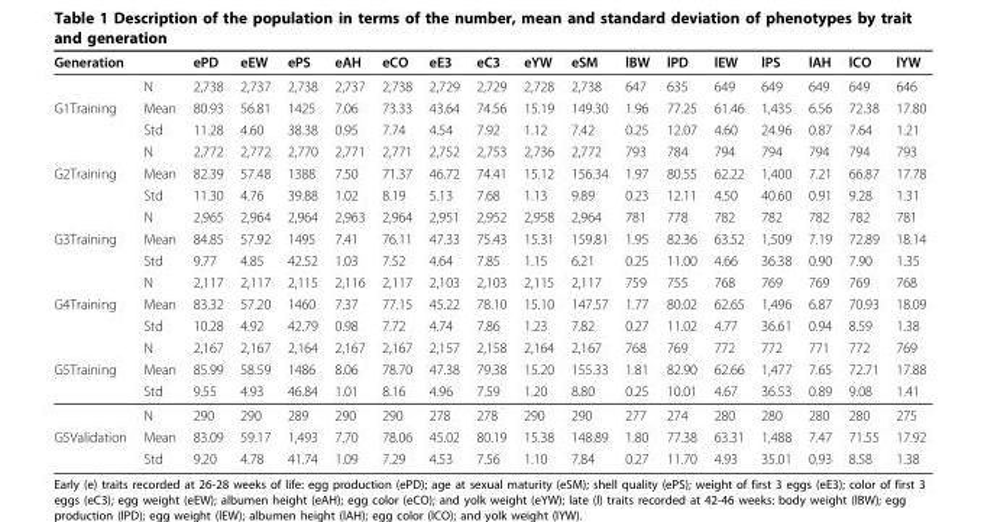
<table><thead><tr><td>Generation</td><td></td><td>ePD</td><td>eEW</td><td>ePS</td><td>eAH</td><td>eCO</td><td>eE3</td><td>eC3</td><td>eYW</td><td>eSM</td><td>lBW</td><td>lPD</td><td>lEW</td><td>lPS</td><td>lAH</td><td>lCO</td><td>lYW</td></tr></thead><tbody><tr><td></td><td>N</td><td>2,738</td><td>2,737</td><td>2,738</td><td>2,737</td><td>2,738</td><td>2,729</td><td>2,729</td><td>2,728</td><td>2,738</td><td>647</td><td>635</td><td>649</td><td>649</td><td>649</td><td>649</td><td>646</td></tr><tr><td rowspan="3">G1Training</td><td>Mean</td><td>80.93</td><td>56.81</td><td>1425</td><td>7.06</td><td>73.33</td><td>43.64</td><td>74.56</td><td>15.19</td><td>149.30</td><td>1.96</td><td>77.25</td><td>61.46</td><td>1,435</td><td>6.56</td><td>72.38</td><td>17.80</td></tr><tr><td>Std</td><td>11.28</td><td>4.60</td><td>38.38</td><td>0.95</td><td>7.74</td><td>4.54</td><td>7.92</td><td>1.12</td><td>7.42</td><td>0.25</td><td>12.07</td><td>4.60</td><td>24.96</td><td>0.87</td><td>7.64</td><td>1.21</td></tr><tr><td>N</td><td>2,772</td><td>2,772</td><td>2,770</td><td>2,771</td><td>2,771</td><td>2,752</td><td>2,753</td><td>2,736</td><td>2,772</td><td>793</td><td>784</td><td>794</td><td>794</td><td>794</td><td>794</td><td>793</td></tr><tr><td rowspan="3">G2Training</td><td>Mean</td><td>82.39</td><td>57.48</td><td>1388</td><td>7.50</td><td>71.37</td><td>46.72</td><td>74.41</td><td>15.12</td><td>156.34</td><td>1.97</td><td>80.55</td><td>62.22</td><td>1,400</td><td>7.21</td><td>66.87</td><td>17.78</td></tr><tr><td>Std</td><td>11.30</td><td>4.76</td><td>39.88</td><td>1.02</td><td>8.19</td><td>5.13</td><td>7.68</td><td>1.13</td><td>9.89</td><td>0.23</td><td>12.11</td><td>4.50</td><td>40.60</td><td>0.91</td><td>9.28</td><td>1.31</td></tr><tr><td>N</td><td>2,965</td><td>2,964</td><td>2,964</td><td>2,963</td><td>2,964</td><td>2,951</td><td>2,952</td><td>2,958</td><td>2,964</td><td>781</td><td>778</td><td>782</td><td>782</td><td>782</td><td>782</td><td>781</td></tr><tr><td rowspan="3">G3Training</td><td>Mean</td><td>84.85</td><td>57.92</td><td>1495</td><td>7.41</td><td>76.11</td><td>47.33</td><td>75.43</td><td>15.31</td><td>159.81</td><td>1.95</td><td>82.36</td><td>63.52</td><td>1,509</td><td>7.19</td><td>72.89</td><td>18.14</td></tr><tr><td>Std</td><td>9.77</td><td>4.85</td><td>42.52</td><td>1.03</td><td>7.52</td><td>4.64</td><td>7.85</td><td>1.15</td><td>6.21</td><td>0.25</td><td>11.00</td><td>4.66</td><td>36.38</td><td>0.90</td><td>7.90</td><td>1.35</td></tr><tr><td>N</td><td>2,117</td><td>2,117</td><td>2,115</td><td>2,116</td><td>2,117</td><td>2,103</td><td>2,103</td><td>2,115</td><td>2,117</td><td>759</td><td>755</td><td>768</td><td>769</td><td>769</td><td>769</td><td>768</td></tr><tr><td rowspan="3">G4Training</td><td>Mean</td><td>83.32</td><td>57.20</td><td>1460</td><td>7.37</td><td>77.15</td><td>45.22</td><td>78.10</td><td>15.10</td><td>147.57</td><td>1.77</td><td>80.02</td><td>62.65</td><td>1,496</td><td>6.87</td><td>70.93</td><td>18.09</td></tr><tr><td>Std</td><td>10.28</td><td>4.92</td><td>42.79</td><td>0.98</td><td>7.72</td><td>4.74</td><td>7.86</td><td>1.23</td><td>7.82</td><td>0.27</td><td>11.02</td><td>4.77</td><td>36.61</td><td>0.94</td><td>8.59</td><td>1.38</td></tr><tr><td>N</td><td>2,167</td><td>2,167</td><td>2,164</td><td>2,167</td><td>2,167</td><td>2,157</td><td>2,158</td><td>2,164</td><td>2,167</td><td>768</td><td>769</td><td>772</td><td>772</td><td>771</td><td>772</td><td>769</td></tr><tr><td rowspan="3">G5Training</td><td>Mean</td><td>85.99</td><td>58.59</td><td>1486</td><td>8.06</td><td>78.70</td><td>47.38</td><td>79.38</td><td>15.20</td><td>155.33</td><td>1.81</td><td>82.90</td><td>62.66</td><td>1,477</td><td>7.65</td><td>72.71</td><td>17.88</td></tr><tr><td>Std</td><td>9.55</td><td>4.93</td><td>46.84</td><td>1.01</td><td>8.16</td><td>4.96</td><td>7.59</td><td>1.20</td><td>8.80</td><td>0.25</td><td>10.01</td><td>4.67</td><td>36.53</td><td>0.89</td><td>9.08</td><td>1.41</td></tr><tr><td>N</td><td>290</td><td>290</td><td>289</td><td>290</td><td>290</td><td>278</td><td>278</td><td>290</td><td>290</td><td>277</td><td>274</td><td>280</td><td>280</td><td>280</td><td>280</td><td>275</td></tr><tr><td rowspan="2">G5Validation</td><td>Mean</td><td>83.09</td><td>59.17</td><td>1,493</td><td>7.70</td><td>78.06</td><td>45.02</td><td>80.19</td><td>15.38</td><td>148.89</td><td>1.80</td><td>77.38</td><td>63.31</td><td>1,488</td><td>7.47</td><td>71.55</td><td>17.92</td></tr><tr><td>Std</td><td>9.20</td><td>4.78</td><td>41.74</td><td>1.09</td><td>7.29</td><td>4.53</td><td>7.56</td><td>1.10</td><td>7.84</td><td>0.27</td><td>11.70</td><td>4.93</td><td>35.01</td><td>0.93</td><td>8.58</td><td>1.38</td></tr></tbody></table>